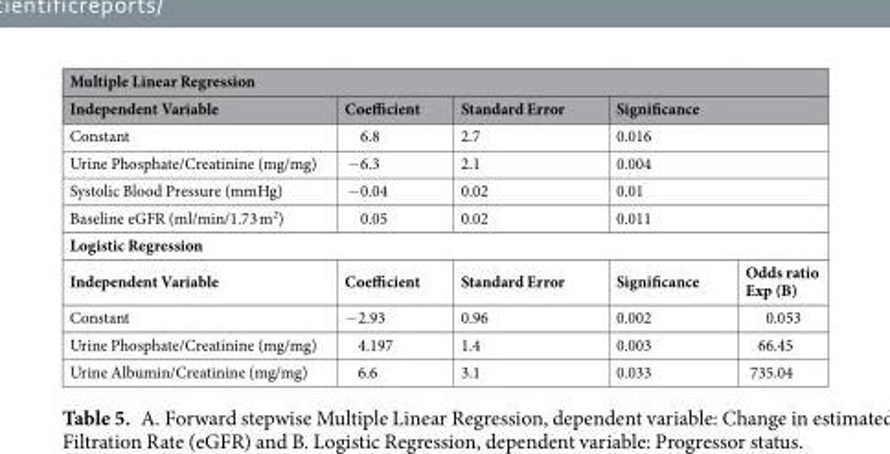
<table><thead><tr><td colspan="5">Multiple Linear Regression</td></tr><tr><td>Independent Variable</td><td>Coefficient</td><td>Standard Error</td><td colspan="2">Significance</td></tr></thead><tbody><tr><td>Constant</td><td>6.8</td><td>2.7</td><td colspan="2">0.016</td></tr><tr><td>Urine Phosphate/Creatinine (mg/mg)</td><td>−6.3</td><td>2.1</td><td colspan="2">0.004</td></tr><tr><td>Systolic Blood Pressure (mmHg)</td><td>−0.04</td><td>0.02</td><td colspan="2">0.01</td></tr><tr><td>Baseline eGFR (ml/min/1.73 m<sup>2</sup>)</td><td>0.05</td><td>0.02</td><td colspan="2">0.011</td></tr><tr><td colspan="5">Logistic Regression</td></tr><tr><td>Independent Variable</td><td>Coefficient</td><td>Standard Error</td><td>Significance</td><td>Odds ratio Exp (B)</td></tr><tr><td>Constant</td><td>−2.93</td><td>0.96</td><td>0.002</td><td>0.053</td></tr><tr><td>Urine Phosphate/Creatinine (mg/mg)</td><td>4.197</td><td>1.4</td><td>0.003</td><td>66.45</td></tr><tr><td>Urine Albumin/Creatinine (mg/mg)</td><td>6.6</td><td>3.1</td><td>0.033</td><td>735.04</td></tr></tbody></table>